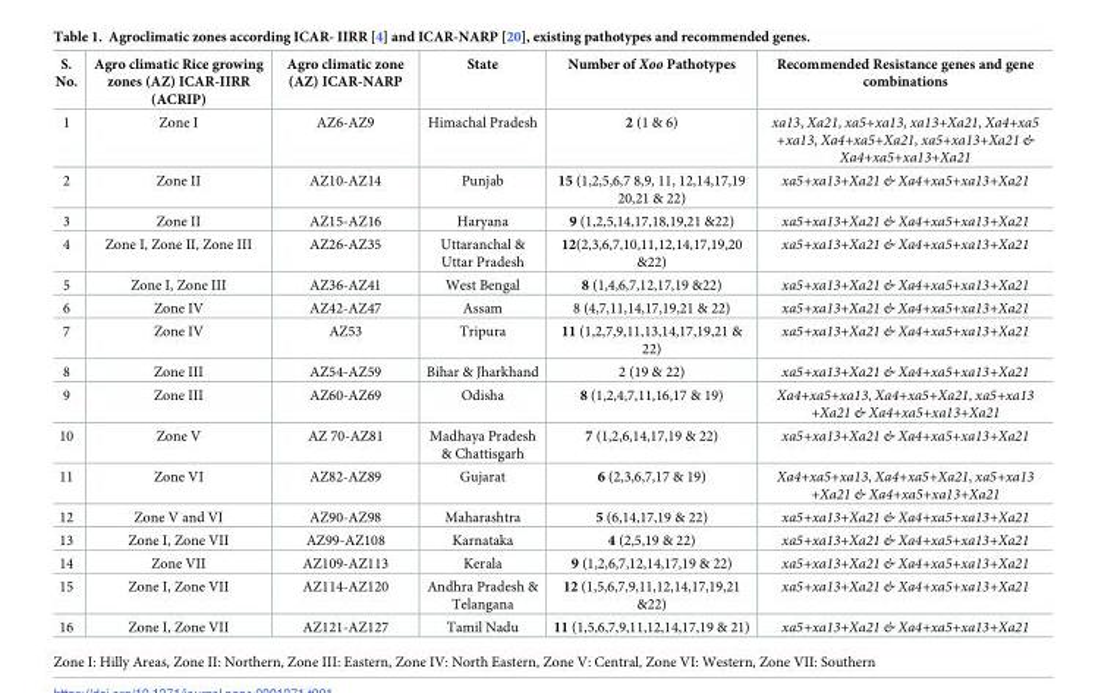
<table><thead><tr><td>S. No.</td><td>Agro climatic Rice growing zones (AZ) ICAR-IIRR (ACRIP)</td><td>Agro climatic zone (AZ) ICAR-NARP</td><td>State</td><td>Number of Xoo Pathotypes</td><td>Recommended Resistance genes and gene combinations</td></tr></thead><tbody><tr><td>1</td><td>Zone I</td><td>AZ6-AZ9</td><td>Himachal Pradesh</td><td>2 (1 &amp; 6)</td><td>xa13, Xa21, xa5+xa13, xa13+Xa21, Xa4+xa5 +xa13, Xa4+xa5+Xa21, xa5+xa13+Xa21 &amp; Xa4+xa5+xa13+Xa21</td></tr><tr><td>2</td><td>Zone II</td><td>AZ10-AZ14</td><td>Punjab</td><td>15 (1,2,5,6,7 8,9, 11, 12,14,17,19 20,21 &amp; 22)</td><td>xa5+xa13+Xa21 &amp; Xa4+xa5+xa13+Xa21</td></tr><tr><td>3</td><td>Zone II</td><td>AZ15-AZ16</td><td>Haryana</td><td>9 (1,2,5,14,17,18,19,21 &amp;22)</td><td>xa5+xa13+Xa21 &amp; Xa4+xa5+xa13+Xa21</td></tr><tr><td>4</td><td>Zone I, Zone II, Zone III</td><td>AZ26-AZ35</td><td>Uttaranchal &amp; Uttar Pradesh</td><td>12(2,3,6,7,10,11,12,14,17,19,20 &amp;22)</td><td>xa5+xa13+Xa21 &amp; Xa4+xa5+xa13+Xa21</td></tr><tr><td>5</td><td>Zone I, Zone III</td><td>AZ36-AZ41</td><td>West Bengal</td><td>8 (1,4,6,7,12,17,19 &amp;22)</td><td>xa5+xa13+Xa21 &amp; Xa4+xa5+xa13+Xa21</td></tr><tr><td>6</td><td>Zone IV</td><td>AZ42-AZ47</td><td>Assam</td><td>8 (4,7,11,14,17,19,21 &amp; 22)</td><td>xa5+xa13+Xa21 &amp; Xa4+xa5+xa13+Xa21</td></tr><tr><td>7</td><td>Zone IV</td><td>AZ53</td><td>Tripura</td><td>11 (1,2,7,9,11,13,14,17,19,21 &amp; 22)</td><td>xa5+xa13+Xa21 &amp; Xa4+xa5+xa13+Xa21</td></tr><tr><td>8</td><td>Zone III</td><td>AZ54-AZ59</td><td>Bihar &amp; Jharkhand</td><td>2 (19 &amp; 22)</td><td>xa5+xa13+Xa21 &amp; Xa4+xa5+xa13+Xa21</td></tr><tr><td>9</td><td>Zone III</td><td>AZ60-AZ69</td><td>Odisha</td><td>8 (1,2,4,7,11,16,17 &amp; 19)</td><td>Xa4+xa5+xa13, Xa4+xa5+Xa21, xa5+xa13 +Xa21 &amp; Xa4+xa5+xa13+Xa21</td></tr><tr><td>10</td><td>Zone V</td><td>AZ 70-AZ81</td><td>Madhaya Pradesh &amp; Chattisgarh</td><td>7 (1,2,6,14,17,19 &amp; 22)</td><td>xa5+xa13+Xa21 &amp; Xa4+xa5+xa13+Xa21</td></tr><tr><td>11</td><td>Zone VI</td><td>AZ82-AZ89</td><td>Gujarat</td><td>6 (2,3,6,7,17 &amp; 19)</td><td>Xa4+xa5+xa13, Xa4+xa5+Xa21, xa5+xa13 +Xa21 &amp; Xa4+xa5+xa13+Xa21</td></tr><tr><td>12</td><td>Zone V and VI</td><td>AZ90-AZ98</td><td>Maharashtra</td><td>5 (6,14,17,19 &amp; 22)</td><td>xa5+xa13+Xa21 &amp; Xa4+xa5+xa13+Xa21</td></tr><tr><td>13</td><td>Zone I, Zone VII</td><td>AZ99-AZ108</td><td>Karnataka</td><td>4 (2,5,19 &amp; 22)</td><td>xa5+xa13+Xa21 &amp; Xa4+xa5+xa13+Xa21</td></tr><tr><td>14</td><td>Zone VII</td><td>AZ109-AZ113</td><td>Kerala</td><td>9 (1,2,6,7,12,14,17,19 &amp; 22)</td><td>xa5+xa13+Xa21 &amp; Xa4+xa5+xa13+Xa21</td></tr><tr><td>15</td><td>Zone I, Zone VII</td><td>AZ114-AZ120</td><td>Andhra Pradesh &amp; Telangana</td><td>12 (1,5,6,7,9,11,12,14,17,19,21 &amp;22)</td><td>xa5+xa13+Xa21 &amp; Xa4+xa5+xa13+Xa21</td></tr><tr><td>16</td><td>Zone I, Zone VII</td><td>AZ121-AZ127</td><td>Tamil Nadu</td><td>11 (1,5,6,7,9,11,12,14,17,19 &amp; 21)</td><td>xa5+xa13+Xa21 &amp; Xa4+xa5+xa13+Xa21</td></tr></tbody></table>